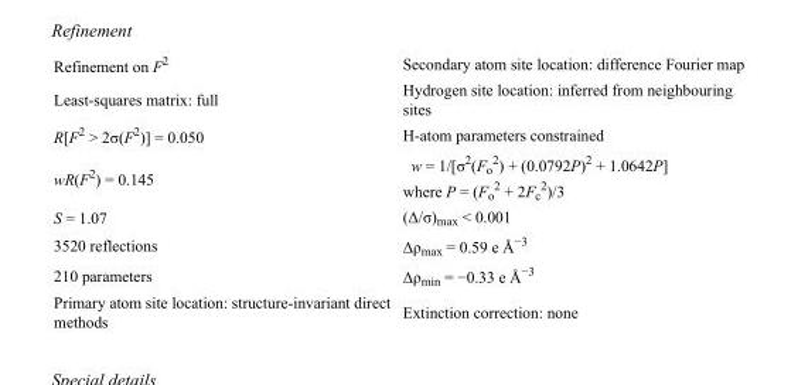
<table><tbody><tr><td>Refinement on F<sup>2</sup></td><td>Secondary atom site location: difference Fourier map</td></tr><tr><td>Least-squares matrix: full</td><td>Hydrogen site location: inferred from neighbouring sites</td></tr><tr><td>R[F<sup>2</sup> &gt; 2σ(F<sup>2</sup>)] = 0.050</td><td>H-atom parameters constrained</td></tr><tr><td>wR(F<sup>2</sup>) = 0.145</td><td>w = 1/[σ<sup>2</sup>(F<sub>o</sub> <sup>2</sup>) + (0.0792P)<sup>2</sup> + 1.0642P] where P = (F<sub>o</sub> <sup>2</sup> + 2F<sub>c</sub> <sup>2</sup>)/3</td></tr><tr><td>S = 1.07</td><td>(Δ/σ)<sub>max</sub> &lt; 0.001</td></tr><tr><td>3520 reflections</td><td>Δρ<sub>max</sub> = 0.59 e Å<sup>−3</sup></td></tr><tr><td>210 parameters</td><td>Δρ<sub>min</sub> = −0.33 e Å<sup>−3</sup></td></tr><tr><td>Primary atom site location: structure-invariant direct methods</td><td>Extinction correction: none</td></tr></tbody></table>